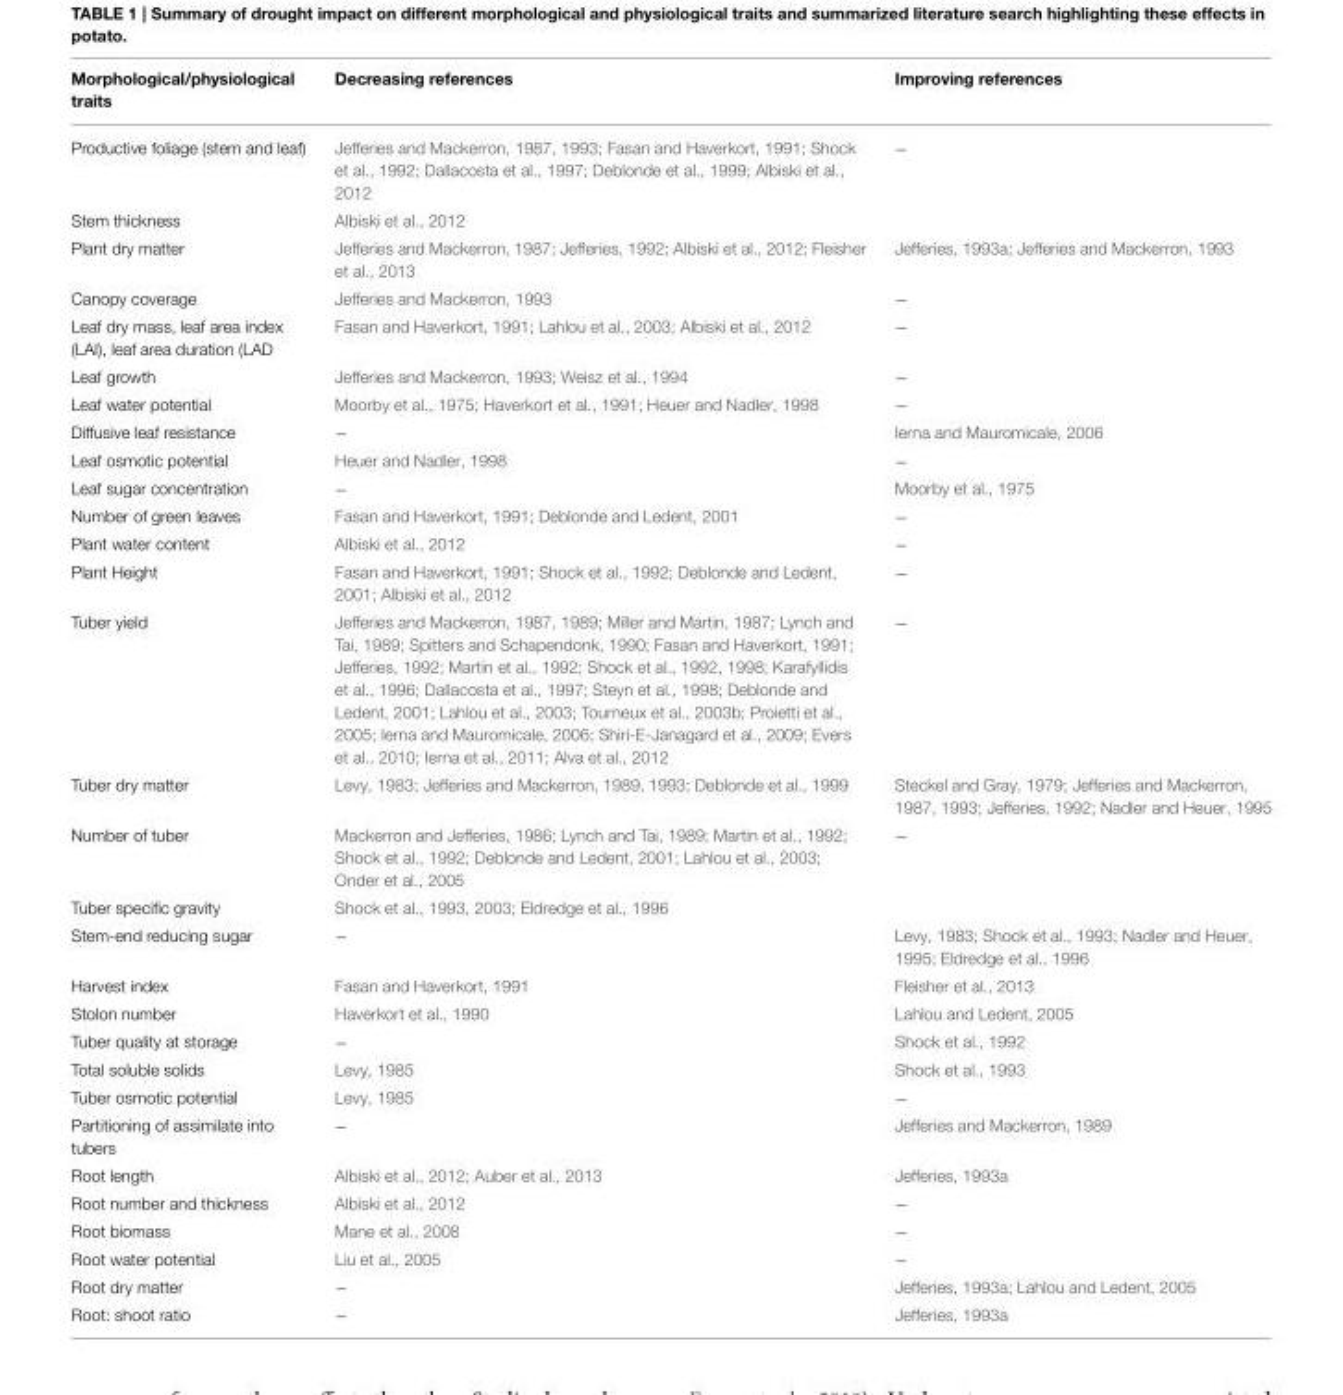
<table><thead><tr><td>Morphological/physiological traits</td><td>Decreasing references</td><td>Improving references</td></tr></thead><tbody><tr><td>Productive foliage (stem and leaf)</td><td>Jefferies and Mackerron, 1987, 1993; Fasan and Haverkort, 1991; Shock et al., 1992; Dallacosta et al., 1997; Deblonde et al., 1999; Albiski et al., 2012</td><td>−</td></tr><tr><td>Stem thickness</td><td>Albiski et al., 2012</td><td></td></tr><tr><td>Plant dry matter</td><td>Jefferies and Mackerron, 1987; Jefferies, 1992; Albiski et al., 2012; Fleisher et al., 2013</td><td>Jefferies, 1993a; Jefferies and Mackerron, 1993</td></tr><tr><td>Canopy coverage</td><td>Jefferies and Mackerron, 1993</td><td>−</td></tr><tr><td>Leaf dry mass, leaf area index (LAI), leaf area duration (LAD</td><td>Fasan and Haverkort, 1991; Lahlou et al., 2003; Albiski et al., 2012</td><td>−</td></tr><tr><td>Leaf growth</td><td>Jefferies and Mackerron, 1993; Weisz et al., 1994</td><td>−</td></tr><tr><td>Leaf water potential</td><td>Moorby et al., 1975; Haverkort et al., 1991; Heuer and Nadler, 1998</td><td>−</td></tr><tr><td>Diffusive leaf resistance</td><td>−</td><td>Ierna and Mauromicale, 2006</td></tr><tr><td>Leaf osmotic potential</td><td>Heuer and Nadler, 1998</td><td>−</td></tr><tr><td>Leaf sugar concentration</td><td>−</td><td>Moorby et al., 1975</td></tr><tr><td>Number of green leaves</td><td>Fasan and Haverkort, 1991; Deblonde and Ledent, 2001</td><td>−</td></tr><tr><td>Plant water content</td><td>Albiski et al., 2012</td><td>−</td></tr><tr><td>Plant Height</td><td>Fasan and Haverkort, 1991; Shock et al., 1992; Deblonde and Ledent, 2001; Albiski et al., 2012</td><td>−</td></tr><tr><td>Tuber yield</td><td>Jefferies and Mackerron, 1987, 1989; Miller and Martin, 1987; Lynch and Tai, 1989; Spitters and Schapendonk, 1990; Fasan and Haverkort, 1991; Jefferies, 1992; Martin et al., 1992; Shock et al., 1992, 1998; Karafyllidis et al., 1996; Dallacosta et al., 1997; Steyn et al., 1998; Deblonde and Ledent, 2001; Lahlou et al., 2003; Tourneux et al., 2003b; Proietti et al., 2005; Ierna and Mauromicale, 2006; Shiri-E-Janagard et al., 2009; Evers et al., 2010; Ierna et al., 2011; Alva et al., 2012</td><td>−</td></tr><tr><td>Tuber dry matter</td><td>Levy, 1983; Jefferies and Mackerron, 1989, 1993; Deblonde et al., 1999</td><td>Steckel and Gray, 1979; Jefferies and Mackerron, 1987, 1993; Jefferies, 1992; Nadler and Heuer, 1995</td></tr><tr><td>Number of tuber</td><td>Mackerron and Jefferies, 1986; Lynch and Tai, 1989; Martin et al., 1992; Shock et al., 1992; Deblonde and Ledent, 2001; Lahlou et al., 2003; Onder et al., 2005</td><td>−</td></tr><tr><td>Tuber specific gravity</td><td>Shock et al., 1993, 2003; Eldredge et al., 1996</td><td></td></tr><tr><td>Stem-end reducing sugar</td><td>−</td><td>Levy, 1983; Shock et al., 1993; Nadler and Heuer, 1995; Eldredge et al., 1996</td></tr><tr><td>Harvest index</td><td>Fasan and Haverkort, 1991</td><td>Fleisher et al., 2013</td></tr><tr><td>Stolon number</td><td>Haverkort et al., 1990</td><td>Lahlou and Ledent, 2005</td></tr><tr><td>Tuber quality at storage</td><td>−</td><td>Shock et al., 1992</td></tr><tr><td>Total soluble solids</td><td>Levy, 1985</td><td>Shock et al., 1993</td></tr><tr><td>Tuber osmotic potential</td><td>Levy, 1985</td><td>−</td></tr><tr><td>Partitioning of assimilate into tubers</td><td>−</td><td>Jefferies and Mackerron, 1989</td></tr><tr><td>Root length</td><td>Albiski et al., 2012; Auber et al., 2013</td><td>Jefferies, 1993a</td></tr><tr><td>Root number and thickness</td><td>Albiski et al., 2012</td><td>−</td></tr><tr><td>Root biomass</td><td>Mane et al., 2008</td><td>−</td></tr><tr><td>Root water potential</td><td>Liu et al., 2005</td><td>−</td></tr><tr><td>Root dry matter</td><td>−</td><td>Jefferies, 1993a; Lahlou and Ledent, 2005</td></tr><tr><td>Root: shoot ratio</td><td>−</td><td>Jefferies, 1993a</td></tr></tbody></table>